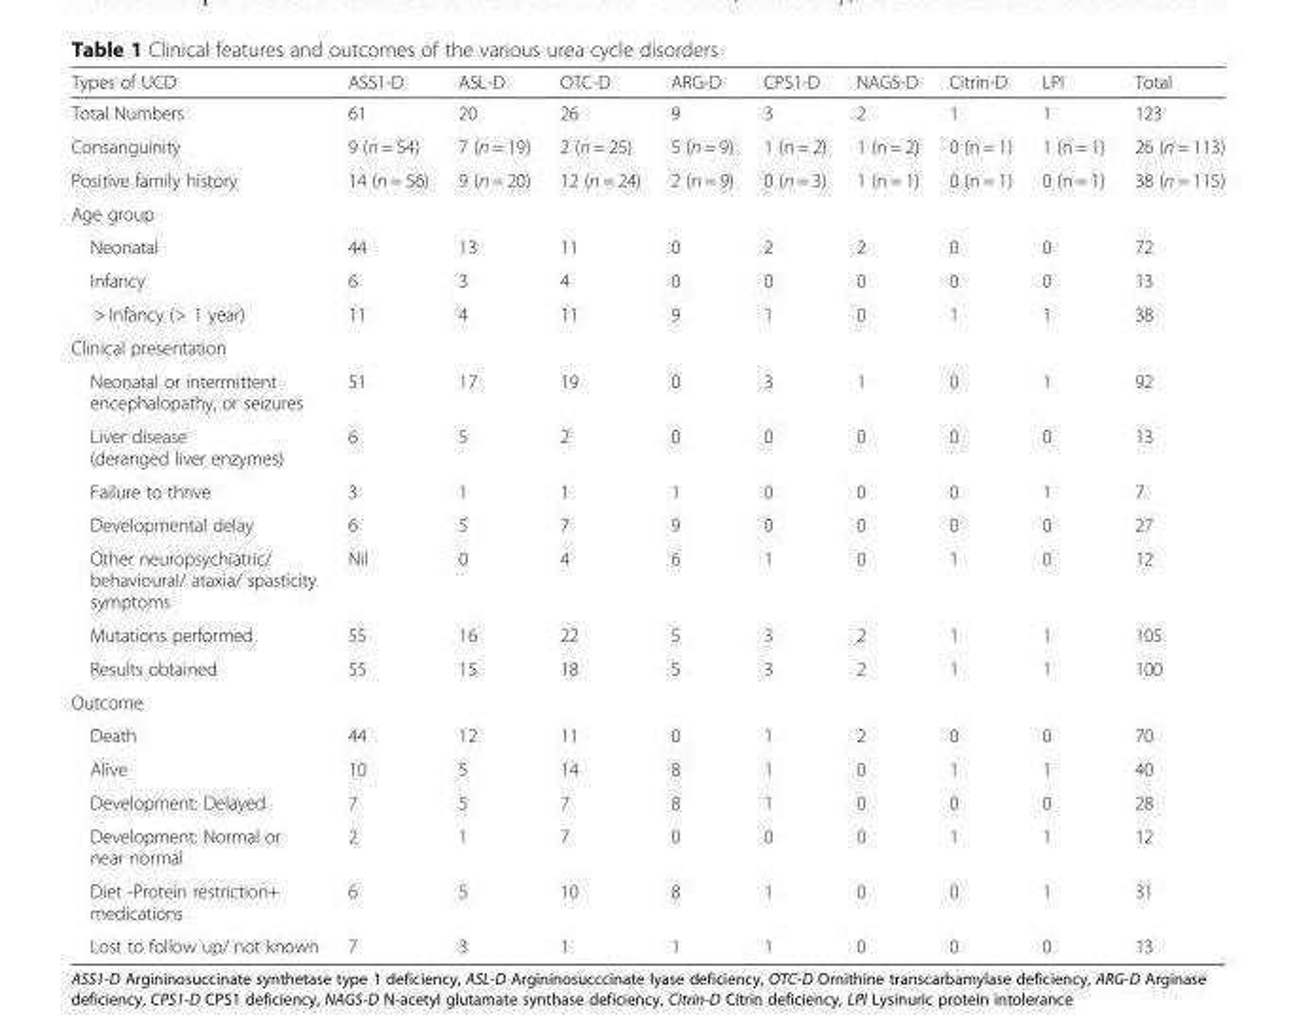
<table><thead><tr><td>Types of UCD</td><td>ASS1-D</td><td>ASL-D</td><td>OTC-D</td><td>ARG-D</td><td>CPS1-D</td><td>NAGS-D</td><td>Citrin-D</td><td>LPI</td><td>Total</td></tr></thead><tbody><tr><td>Total Numbers</td><td>61</td><td>20</td><td>26</td><td>9</td><td>3</td><td>2</td><td>1</td><td>1</td><td>123</td></tr><tr><td>Consanguinity</td><td>9 (n = 54)</td><td>7 (n = 19)</td><td>2 (n = 25)</td><td>5 (n = 9)</td><td>1 (n = 2)</td><td>1 (n = 2)</td><td>0 (n = 1)</td><td>1 (n = 1)</td><td>26 (n = 113)</td></tr><tr><td>Positive family history</td><td>14 (n = 56)</td><td>9 (n = 20)</td><td>12 (n = 24)</td><td>2 (n = 9)</td><td>0 (n = 3)</td><td>1 (n = 1)</td><td>0 (n = 1)</td><td>0 (n = 1)</td><td>38 (n = 115)</td></tr><tr><td colspan="10">Age group</td></tr><tr><td>Neonatal</td><td>44</td><td>13</td><td>11</td><td>0</td><td>2</td><td>2</td><td>0</td><td>0</td><td>72</td></tr><tr><td>Infancy</td><td>6</td><td>3</td><td>4</td><td>0</td><td>0</td><td>0</td><td>0</td><td>0</td><td>13</td></tr><tr><td>&gt; Infancy (&gt; 1 year)</td><td>11</td><td>4</td><td>11</td><td>9</td><td>1</td><td>0</td><td>1</td><td>1</td><td>38</td></tr><tr><td colspan="10">Clinical presentation</td></tr><tr><td>Neonatal or intermittent encephalopathy, or seizures</td><td>51</td><td>17</td><td>19</td><td>0</td><td>3</td><td>1</td><td>0</td><td>1</td><td>92</td></tr><tr><td>Liver disease (deranged liver enzymes)</td><td>6</td><td>5</td><td>2</td><td>0</td><td>0</td><td>0</td><td>0</td><td>0</td><td>13</td></tr><tr><td>Failure to thrive</td><td>3</td><td>1</td><td>1</td><td>1</td><td>0</td><td>0</td><td>0</td><td>1</td><td>7</td></tr><tr><td>Developmental delay</td><td>6</td><td>5</td><td>7</td><td>9</td><td>0</td><td>0</td><td>0</td><td>0</td><td>27</td></tr><tr><td>Other neuropsychiatric/ behavioural/ ataxia/ spasticity symptoms</td><td>Nil</td><td>0</td><td>4</td><td>6</td><td>1</td><td>0</td><td>1</td><td>0</td><td>12</td></tr><tr><td>Mutations performed</td><td>55</td><td>16</td><td>22</td><td>5</td><td>3</td><td>2</td><td>1</td><td>1</td><td>105</td></tr><tr><td>Results obtained</td><td>55</td><td>15</td><td>18</td><td>5</td><td>3</td><td>2</td><td>1</td><td>1</td><td>100</td></tr><tr><td colspan="10">Outcome</td></tr><tr><td>Death</td><td>44</td><td>12</td><td>11</td><td>0</td><td>1</td><td>2</td><td>0</td><td>0</td><td>70</td></tr><tr><td>Alive</td><td>10</td><td>5</td><td>14</td><td>8</td><td>1</td><td>0</td><td>1</td><td>1</td><td>40</td></tr><tr><td>Development: Delayed</td><td>7</td><td>5</td><td>7</td><td>8</td><td>1</td><td>0</td><td>0</td><td>0</td><td>28</td></tr><tr><td>Development: Normal or near normal</td><td>2</td><td>1</td><td>7</td><td>0</td><td>0</td><td>0</td><td>1</td><td>1</td><td>12</td></tr><tr><td>Diet -Protein restriction+ medications</td><td>6</td><td>5</td><td>10</td><td>8</td><td>1</td><td>0</td><td>0</td><td>1</td><td>31</td></tr><tr><td>Lost to follow up/ not known</td><td>7</td><td>3</td><td>1</td><td>1</td><td>1</td><td>0</td><td>0</td><td>0</td><td>13</td></tr></tbody></table>